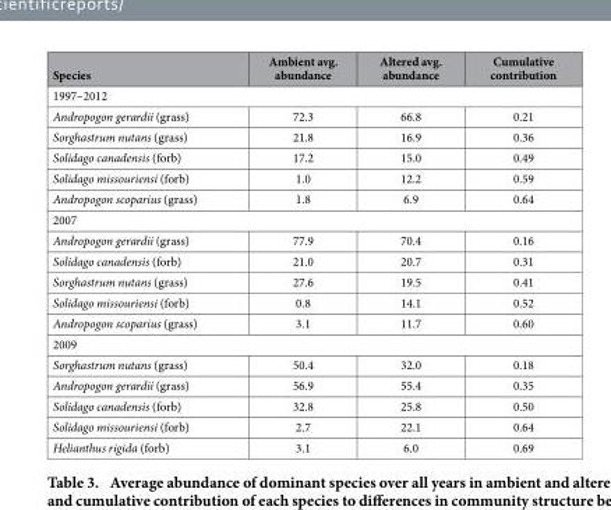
<table><thead><tr><td>Species</td><td>Ambient avg. abundance</td><td>Altered avg. abundance</td><td>Cumulative contribution</td></tr></thead><tbody><tr><td colspan="4">1997–2012</td></tr><tr><td>Andropogon gerardii (grass)</td><td>72.3</td><td>66.8</td><td>0.21</td></tr><tr><td>Sorghastrum nutans (grass)</td><td>21.8</td><td>16.9</td><td>0.36</td></tr><tr><td>Solidago canadensis (forb)</td><td>17.2</td><td>15.0</td><td>0.49</td></tr><tr><td>Solidago missouriensi (forb)</td><td>1.0</td><td>12.2</td><td>0.59</td></tr><tr><td>Andropogon scoparius (grass)</td><td>1.8</td><td>6.9</td><td>0.64</td></tr><tr><td colspan="4">2007</td></tr><tr><td>Andropogon gerardii (grass)</td><td>77.9</td><td>70.4</td><td>0.16</td></tr><tr><td>Solidago canadensis (forb)</td><td>21.0</td><td>20.7</td><td>0.31</td></tr><tr><td>Sorghastrum nutans (grass)</td><td>27.6</td><td>19.5</td><td>0.41</td></tr><tr><td>Solidago missouriensi (forb)</td><td>0.8</td><td>14.1</td><td>0.52</td></tr><tr><td>Andropogon scoparius (grass)</td><td>3.1</td><td>11.7</td><td>0.60</td></tr><tr><td colspan="4">2009</td></tr><tr><td>Sorghastrum nutans (grass)</td><td>50.4</td><td>32.0</td><td>0.18</td></tr><tr><td>Andropogon gerardii (grass)</td><td>56.9</td><td>55.4</td><td>0.35</td></tr><tr><td>Solidago canadensis (forb)</td><td>32.8</td><td>25.8</td><td>0.50</td></tr><tr><td>Solidago missouriensi (forb)</td><td>2.7</td><td>22.1</td><td>0.64</td></tr><tr><td>Helianthus rigida (forb)</td><td>3.1</td><td>6.0</td><td>0.69</td></tr></tbody></table>